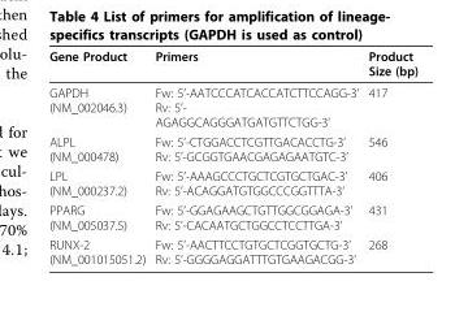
<table><thead><tr><td>Gene Product</td><td>Primers</td><td>Product Size (bp)</td></tr></thead><tbody><tr><td>GAPDH (NM_002046.3)</td><td>Fw: 5’-AATCCCATCACCATCTTCCAGG-3’ Rv: 5’- AGAGGCAGGGATGATGTTCTGG-3’</td><td>417</td></tr><tr><td>ALPL (NM_000478)</td><td>Fw: 5’-CTGGACCTCGTTGACACCTG-3’ Rv: 5’-GCGGTGAACGAGAGAATGTC-3’</td><td>546</td></tr><tr><td>LPL (NM_000237.2)</td><td>Fw: 5’-AAAGCCCTGCTCGTGCTGAC-3’ Rv: 5’-ACAGGATGTGGCCCGGTTTA-3’</td><td>406</td></tr><tr><td>PPARG (NM_005037.5)</td><td>Fw: 5’-GGAGAAGCTGTTGGCGGAGA-3’ Rv: 5’-CACAATGCTGGCCTCCTTGA-3’</td><td>431</td></tr><tr><td>RUNX-2 (NM_001015051.2)</td><td>Fw: 5’-AACTTCCTGTGCTCGGTGCTG-3’ Rv: 5’-GGGGAGGATTTGTGAAGACGG-3’</td><td>268</td></tr></tbody></table>